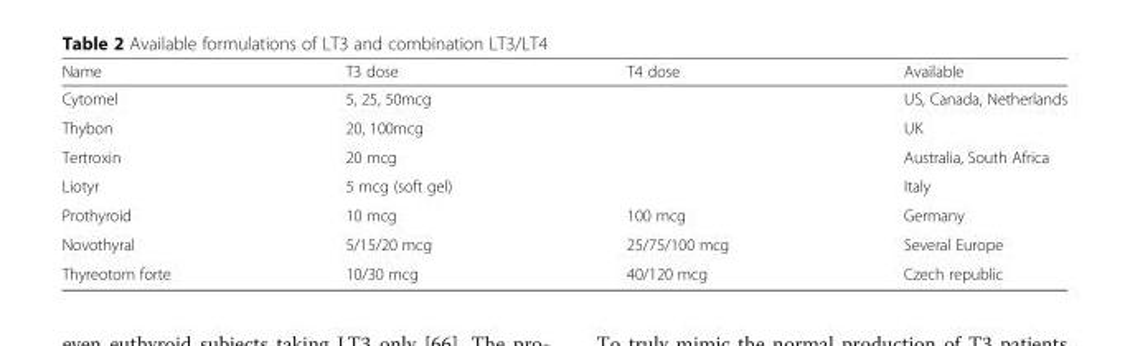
<table><thead><tr><td>Name</td><td>T3 dose</td><td>T4 dose</td><td>Available</td></tr></thead><tbody><tr><td>Cytomel</td><td>5, 25, 50mcg</td><td></td><td>US, Canada, Netherlands</td></tr><tr><td>Thybon</td><td>20, 100mcg</td><td></td><td>UK</td></tr><tr><td>Tertroxin</td><td>20 mcg</td><td></td><td>Australia, South Africa</td></tr><tr><td>Liotyr</td><td>5 mcg (soft gel)</td><td></td><td>Italy</td></tr><tr><td>Prothyroid</td><td>10 mcg</td><td>100 mcg</td><td>Germany</td></tr><tr><td>Novothyral</td><td>5/15/20 mcg</td><td>25/75/100 mcg</td><td>Several Europe</td></tr><tr><td>Thyreotom forte</td><td>10/30 mcg</td><td>40/120 mcg</td><td>Czech republic</td></tr></tbody></table>